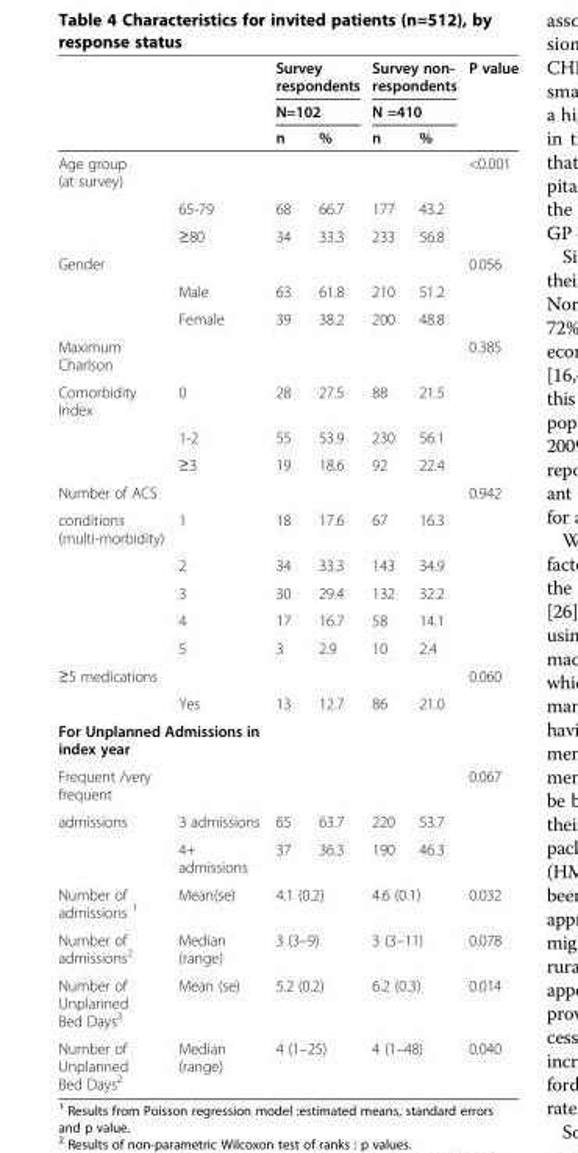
<table><thead><tr><td rowspan="3"></td><td rowspan="3"></td><td rowspan="2" colspan="2">Survey respondents N=102</td><td rowspan="2" colspan="2">Survey non- respondents N =410</td><td rowspan="3">P value</td></tr><tr></tr><tr><td>n</td><td>%</td><td>n</td><td>%</td></tr></thead><tbody><tr><td rowspan="3">Age group (at survey)</td><td></td><td></td><td></td><td></td><td></td><td>&lt;0.001</td></tr><tr><td>65-79</td><td>68</td><td>66.7</td><td>177</td><td>43.2</td><td></td></tr><tr><td>≥80</td><td>34</td><td>33.3</td><td>233</td><td>56.8</td><td></td></tr><tr><td rowspan="3">Gender</td><td></td><td></td><td></td><td></td><td></td><td>0.056</td></tr><tr><td>Male</td><td>63</td><td>61.8</td><td>210</td><td>51.2</td><td></td></tr><tr><td>Female</td><td>39</td><td>38.2</td><td>200</td><td>48.8</td><td></td></tr><tr><td>Maximum Charlson</td><td></td><td></td><td></td><td></td><td></td><td>0.385</td></tr><tr><td rowspan="3">Comorbidity Index</td><td>0</td><td>28</td><td>27.5</td><td>88</td><td>21.5</td><td></td></tr><tr><td>1-2</td><td>55</td><td>53.9</td><td>230</td><td>56.1</td><td></td></tr><tr><td>≥3</td><td>19</td><td>18.6</td><td>92</td><td>22.4</td><td></td></tr><tr><td>Number of ACS</td><td></td><td></td><td></td><td></td><td></td><td>0.942</td></tr><tr><td rowspan="5">conditions (multi-morbidity)</td><td>1</td><td>18</td><td>17.6</td><td>67</td><td>16.3</td><td></td></tr><tr><td>2</td><td>34</td><td>33.3</td><td>143</td><td>34.9</td><td></td></tr><tr><td>3</td><td>30</td><td>29.4</td><td>132</td><td>32.2</td><td></td></tr><tr><td>4</td><td>17</td><td>16.7</td><td>58</td><td>14.1</td><td></td></tr><tr><td>5</td><td>3</td><td>2.9</td><td>10</td><td>2.4</td><td></td></tr><tr><td rowspan="2">≥5 medications</td><td></td><td></td><td></td><td></td><td></td><td>0.060</td></tr><tr><td>Yes</td><td>13</td><td>12.7</td><td>86</td><td>21.0</td><td></td></tr><tr><td colspan="7">For Unplanned Admissions in index year</td></tr><tr><td>Frequent /very frequent</td><td></td><td></td><td></td><td></td><td></td><td>0.067</td></tr><tr><td rowspan="2">admissions</td><td>3 admissions</td><td>65</td><td>63.7</td><td>220</td><td>53.7</td><td></td></tr><tr><td>4+ admissions</td><td>37</td><td>36.3</td><td>190</td><td>46.3</td><td></td></tr><tr><td>Number of admissions <sup>1</sup></td><td>Mean(se)</td><td colspan="2">4.1 (0.2)</td><td colspan="2">4.6 (0.1)</td><td>0.032</td></tr><tr><td>Number of admissions<sup>2</sup></td><td>Median (range)</td><td colspan="2">3 (3–9)</td><td colspan="2">3 (3–11)</td><td>0.078</td></tr><tr><td>Number of Unplanned Bed Days<sup>3</sup></td><td>Mean (se)</td><td colspan="2">5.2 (0.2)</td><td colspan="2">6.2 (0.3)</td><td>0.014</td></tr><tr><td>Number of Unplanned Bed Days<sup>2</sup></td><td>Median (range)</td><td colspan="2">4 (1–25)</td><td colspan="2">4 (1–48)</td><td>0.040</td></tr></tbody></table>